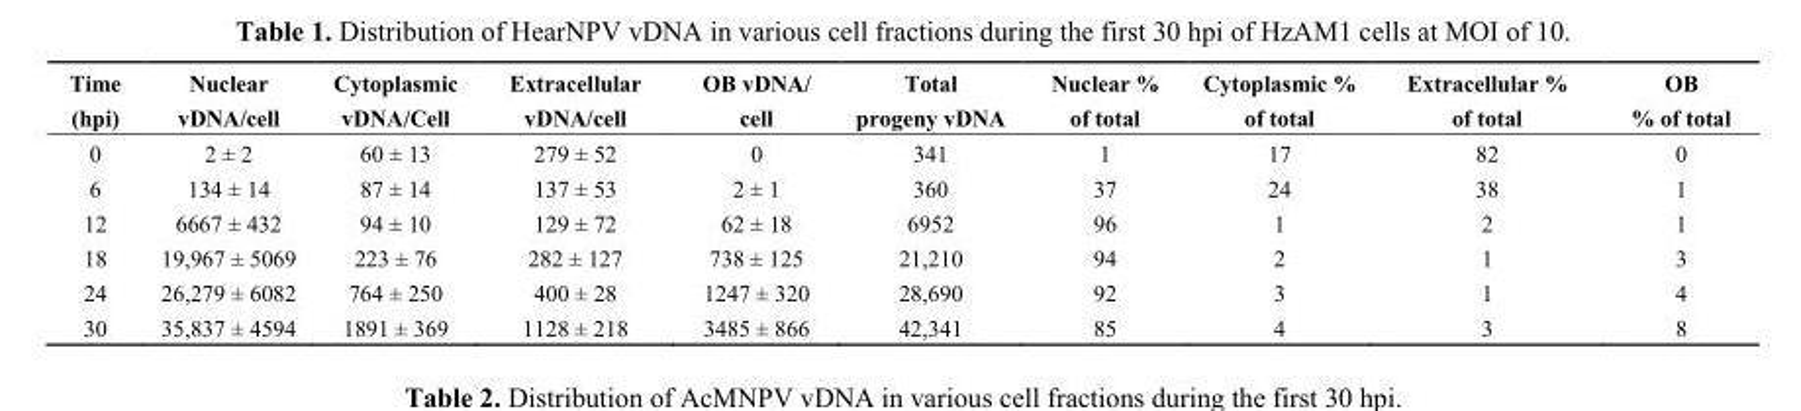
<table><thead><tr><td>Time (hpi)</td><td>Nuclear vDNA/cell</td><td>Cytoplasmic vDNA/Cell</td><td>Extracellular vDNA/cell</td><td>OB vDNA/ cell</td><td>Total progeny vDNA</td><td>Nuclear % of total</td><td>Cytoplasmic % of total</td><td>Extracellular % of total</td><td>OB % of total</td></tr></thead><tbody><tr><td>0</td><td>2 ± 2</td><td>60 ± 13</td><td>279 ± 52</td><td>0</td><td>341</td><td>1</td><td>17</td><td>82</td><td>0</td></tr><tr><td>6</td><td>134 ± 14</td><td>87 ± 14</td><td>137 ± 53</td><td>2 ± 1</td><td>360</td><td>37</td><td>24</td><td>38</td><td>1</td></tr><tr><td>12</td><td>6667 ± 432</td><td>94 ± 10</td><td>129 ± 72</td><td>62 ± 18</td><td>6952</td><td>96</td><td>1</td><td>2</td><td>1</td></tr><tr><td>18</td><td>19,967 ± 5069</td><td>223 ± 76</td><td>282 ± 127</td><td>738 ± 125</td><td>21,210</td><td>94</td><td>2</td><td>1</td><td>3</td></tr><tr><td>24</td><td>26,279 ± 6082</td><td>764 ± 250</td><td>400 ± 28</td><td>1247 ± 320</td><td>28,690</td><td>92</td><td>3</td><td>1</td><td>4</td></tr><tr><td>30</td><td>35,837 ± 4594</td><td>1891 ± 369</td><td>1128 ± 218</td><td>3485 ± 866</td><td>42,341</td><td>85</td><td>4</td><td>3</td><td>8</td></tr></tbody></table>